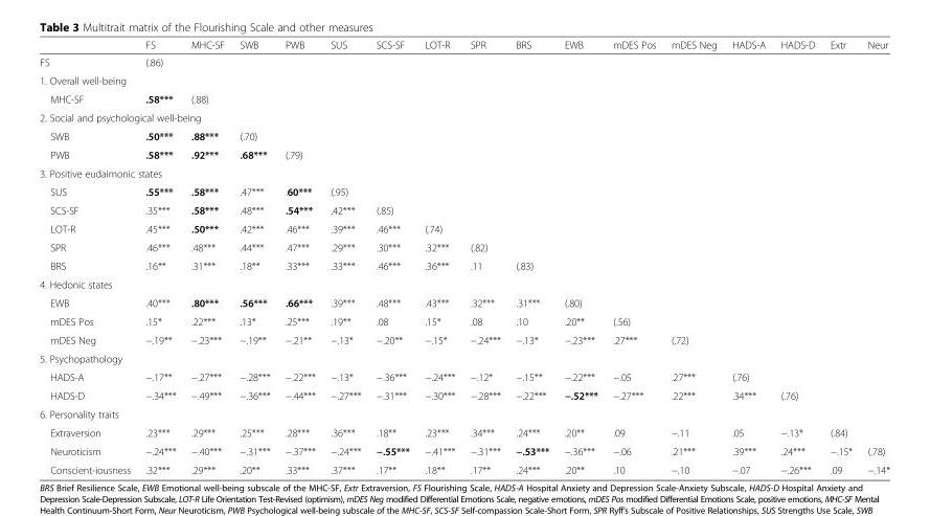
<table><thead><tr><td></td><td>FS</td><td>MHC-SF</td><td>SWB</td><td>PWB</td><td>SUS</td><td>SCS-SF</td><td>LOT-R</td><td>SPR</td><td>BRS</td><td>EWB</td><td>mDES Pos</td><td>mDES Neg</td><td>HADS-A</td><td>HADS-D</td><td>Extr</td><td>Neur</td></tr></thead><tbody><tr><td>FS</td><td>(.86)</td><td></td><td></td><td></td><td></td><td></td><td></td><td></td><td></td><td></td><td></td><td></td><td></td><td></td><td></td><td></td></tr><tr><td colspan="17">1. Overall well-being</td></tr><tr><td>MHC-SF</td><td>.58***</td><td>(.88)</td><td></td><td></td><td></td><td></td><td></td><td></td><td></td><td></td><td></td><td></td><td></td><td></td><td></td><td></td></tr><tr><td colspan="17">2. Social and psychological well-being</td></tr><tr><td>SWB</td><td>.50***</td><td>.88***</td><td>(.70)</td><td></td><td></td><td></td><td></td><td></td><td></td><td></td><td></td><td></td><td></td><td></td><td></td><td></td></tr><tr><td>PWB</td><td>.58***</td><td>.92***</td><td>.68***</td><td>(.79)</td><td></td><td></td><td></td><td></td><td></td><td></td><td></td><td></td><td></td><td></td><td></td><td></td></tr><tr><td colspan="17">3. Positive eudaimonic states</td></tr><tr><td>SUS</td><td>.55***</td><td>.58***</td><td>.47***</td><td>.60***</td><td>(.95)</td><td></td><td></td><td></td><td></td><td></td><td></td><td></td><td></td><td></td><td></td><td></td></tr><tr><td>SCS-SF</td><td>.35***</td><td>.58***</td><td>.48***</td><td>.54***</td><td>.42***</td><td>(.85)</td><td></td><td></td><td></td><td></td><td></td><td></td><td></td><td></td><td></td><td></td></tr><tr><td>LOT-R</td><td>.45***</td><td>.50***</td><td>.42***</td><td>.46***</td><td>.39***</td><td>.46***</td><td>(.74)</td><td></td><td></td><td></td><td></td><td></td><td></td><td></td><td></td><td></td></tr><tr><td>SPR</td><td>.46***</td><td>.48***</td><td>.44***</td><td>.47***</td><td>.29***</td><td>.30***</td><td>.32***</td><td>(.82)</td><td></td><td></td><td></td><td></td><td></td><td></td><td></td><td></td></tr><tr><td>BRS</td><td>.16**</td><td>.31***</td><td>.18**</td><td>.33***</td><td>.33***</td><td>.46***</td><td>.36***</td><td>.11</td><td>(.83)</td><td></td><td></td><td></td><td></td><td></td><td></td><td></td></tr><tr><td colspan="17">4. Hedonic states</td></tr><tr><td>EWB</td><td>.40***</td><td>.80***</td><td>.56***</td><td>.66***</td><td>.39***</td><td>.48***</td><td>.43***</td><td>.32***</td><td>.31***</td><td>(.80)</td><td></td><td></td><td></td><td></td><td></td><td></td></tr><tr><td>mDES Pos</td><td>.15*</td><td>.22***</td><td>.13*</td><td>.25***</td><td>.19**</td><td>.08</td><td>.15*</td><td>.08</td><td>.10</td><td>.20**</td><td>(.56)</td><td></td><td></td><td></td><td></td><td></td></tr><tr><td>mDES Neg</td><td>−.19**</td><td>−.23***</td><td>−.19**</td><td>−.21**</td><td>−.13*</td><td>−.20**</td><td>−.15*</td><td>−.24***</td><td>−.13*</td><td>−.23***</td><td>.27***</td><td>(.72)</td><td></td><td></td><td></td><td></td></tr><tr><td colspan="17">5. Psychopathology</td></tr><tr><td>HADS-A</td><td>−.17**</td><td>−.27***</td><td>−.28***</td><td>−.22***</td><td>−.13*</td><td>−.36***</td><td>−.24***</td><td>−.12*</td><td>−.15**</td><td>−.22***</td><td>−.05</td><td>.27***</td><td>(.76)</td><td></td><td></td><td></td></tr><tr><td>HADS-D</td><td>−.34***</td><td>−.49***</td><td>−.36***</td><td>−.44***</td><td>−.27***</td><td>−.31***</td><td>−.30***</td><td>−.28***</td><td>−.22***</td><td>−.52***</td><td>−.27***</td><td>.22***</td><td>.34***</td><td>(.76)</td><td></td><td></td></tr><tr><td colspan="17">6. Personality traits</td></tr><tr><td>Extraversion</td><td>.23***</td><td>.29***</td><td>.25***</td><td>.28***</td><td>.36***</td><td>.18**</td><td>.23***</td><td>.34***</td><td>.24***</td><td>.20**</td><td>.09</td><td>−.11</td><td>.05</td><td>−.13*</td><td>(.84)</td><td></td></tr><tr><td>Neuroticism</td><td>−.24***</td><td>−.40***</td><td>−.31***</td><td>−.37***</td><td>−.24***</td><td>−.55***</td><td>−.41***</td><td>−.31***</td><td>−.53***</td><td>−.36***</td><td>−.06</td><td>.21***</td><td>.39***</td><td>.24***</td><td>−.15*</td><td>(.78)</td></tr><tr><td>Conscient-iousness</td><td>.32***</td><td>.29***</td><td>.20**</td><td>.33***</td><td>.37***</td><td>.17**</td><td>.18**</td><td>.17**</td><td>.24***</td><td>.20**</td><td>.10</td><td>−.10</td><td>−.07</td><td>−.26***</td><td>.09</td><td>−.14*</td></tr></tbody></table>